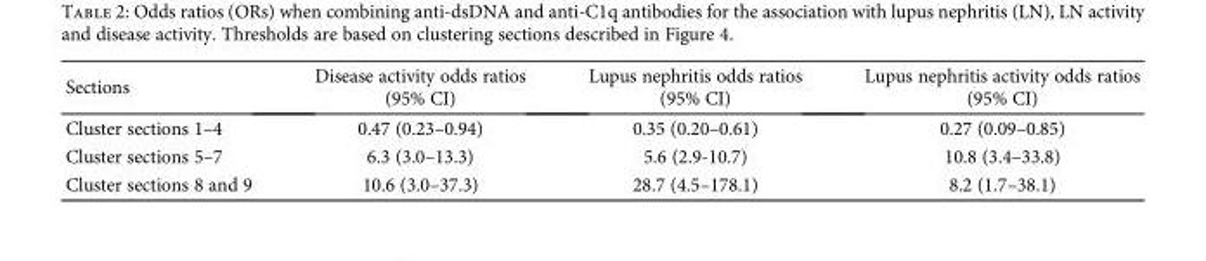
<table><thead><tr><td>Sections</td><td>Disease activity odds ratios (95% CI)</td><td>Lupus nephritis odds ratios (95% CI)</td><td>Lupus nephritis activity odds ratios (95% CI)</td></tr></thead><tbody><tr><td>Cluster sections 1–4</td><td>0.47 (0.23–0.94)</td><td>0.35 (0.20–0.61)</td><td>0.27 (0.09–0.85)</td></tr><tr><td>Cluster sections 5–7</td><td>6.3 (3.0–13.3)</td><td>5.6 (2.9-10.7)</td><td>10.8 (3.4–33.8)</td></tr><tr><td>Cluster sections 8 and 9</td><td>10.6 (3.0–37.3)</td><td>28.7 (4.5–178.1)</td><td>8.2 (1.7–38.1)</td></tr></tbody></table>